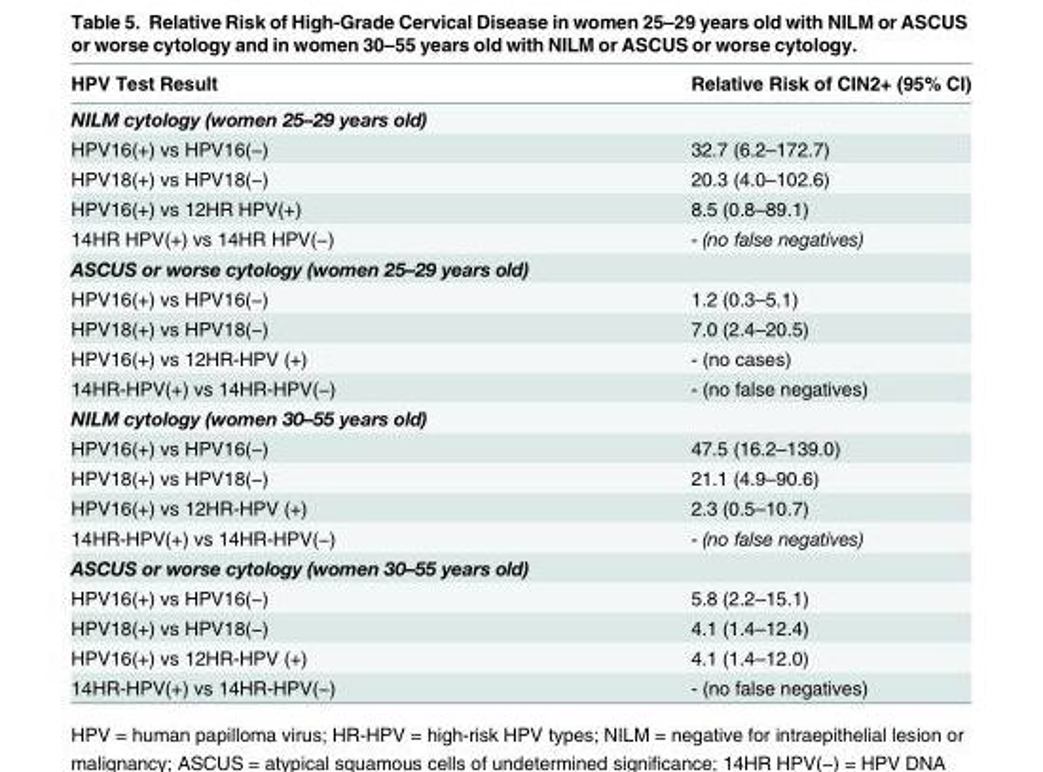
<table><thead><tr><td>HPV Test Result</td><td>Relative Risk of CIN2+ (95% CI)</td></tr></thead><tbody><tr><td colspan="2">NILM cytology (women 25–29 years old)</td></tr><tr><td>HPV16(+) vs HPV16(−)</td><td>32.7 (6.2–172.7)</td></tr><tr><td>HPV18(+) vs HPV18(−)</td><td>20.3 (4.0–102.6)</td></tr><tr><td>HPV16(+) vs 12HR HPV(+)</td><td>8.5 (0.8–89.1)</td></tr><tr><td>14HR HPV(+) vs 14HR HPV(−)</td><td>- (no false negatives)</td></tr><tr><td colspan="2">ASCUS or worse cytology (women 25–29 years old)</td></tr><tr><td>HPV16(+) vs HPV16(−)</td><td>1.2 (0.3–5.1)</td></tr><tr><td>HPV18(+) vs HPV18(−)</td><td>7.0 (2.4–20.5)</td></tr><tr><td>HPV16(+) vs 12HR-HPV (+)</td><td>- (no cases)</td></tr><tr><td>14HR-HPV(+) vs 14HR-HPV(−)</td><td>- (no false negatives)</td></tr><tr><td colspan="2">NILM cytology (women 30–55 years old)</td></tr><tr><td>HPV16(+) vs HPV16(−)</td><td>47.5 (16.2–139.0)</td></tr><tr><td>HPV18(+) vs HPV18(−)</td><td>21.1 (4.9–90.6)</td></tr><tr><td>HPV16(+) vs 12HR-HPV (+)</td><td>2.3 (0.5–10.7)</td></tr><tr><td>14HR-HPV(+) vs 14HR-HPV(−)</td><td>- (no false negatives)</td></tr><tr><td colspan="2">ASCUS or worse cytology (women 30–55 years old)</td></tr><tr><td>HPV16(+) vs HPV16(−)</td><td>5.8 (2.2–15.1)</td></tr><tr><td>HPV18(+) vs HPV18(−)</td><td>4.1 (1.4–12.4)</td></tr><tr><td>HPV16(+) vs 12HR-HPV (+)</td><td>4.1 (1.4–12.0)</td></tr><tr><td>14HR-HPV(+) vs 14HR-HPV(−)</td><td>- (no false negatives)</td></tr></tbody></table>